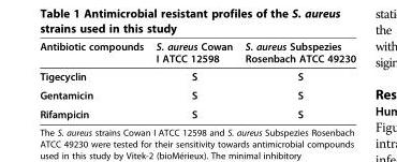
<table><thead><tr><td>Antibiotic compounds</td><td>S. aureus Cowan I ATCC 12598</td><td>S. aureus Subspezies Rosenbach ATCC 49230</td></tr></thead><tbody><tr><td>Tigecyclin</td><td>S</td><td>S</td></tr><tr><td>Gentamicin</td><td>S</td><td>S</td></tr><tr><td>Rifampicin</td><td>S</td><td>S</td></tr></tbody></table>